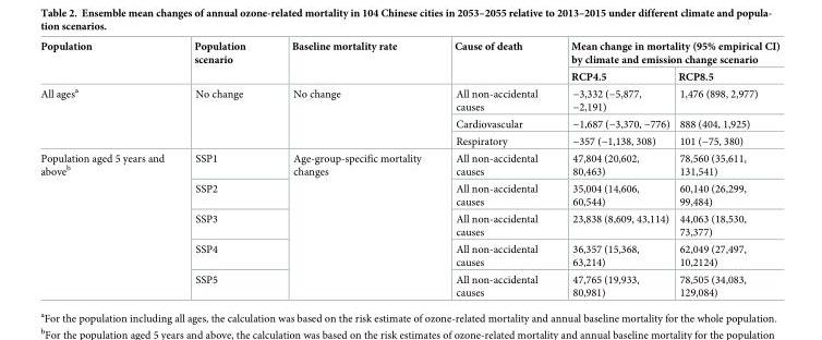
<table><thead><tr><td rowspan="2">Population</td><td rowspan="2">Population scenario</td><td rowspan="2">Baseline mortality rate</td><td rowspan="2">Cause of death</td><td colspan="2">Mean change in mortality (95% empirical CI) by climate and emission change scenario</td></tr><tr><td>RCP4.5</td><td>RCP8.5</td></tr></thead><tbody><tr><td rowspan="3">All ages<sup>a</sup></td><td rowspan="3">No change</td><td rowspan="3">No change</td><td>All non-accidental causes</td><td>−3,332 (−5,877, −2,191)</td><td>1,476 (898, 2,977)</td></tr><tr><td>Cardiovascular</td><td>−1,687 (−3,370, −776)</td><td>888 (404, 1,925)</td></tr><tr><td>Respiratory</td><td>−357 (−1,138, 308)</td><td>101 (−75, 380)</td></tr><tr><td rowspan="5">Population aged 5 years and above<sup>b</sup></td><td>SSP1</td><td rowspan="5">Age-group-specific mortality changes</td><td>All non-accidental causes</td><td>47,804 (20,602, 80,463)</td><td>78,560 (35,611, 131,541)</td></tr><tr><td>SSP2</td><td>All non-accidental causes</td><td>35,004 (14,606, 60,544)</td><td>60,140 (26,299, 99,484)</td></tr><tr><td>SSP3</td><td>All non-accidental causes</td><td>23,838 (8,609, 43,114)</td><td>44,063 (18,530, 73,377)</td></tr><tr><td>SSP4</td><td>All non-accidental causes</td><td>36,357 (15,368, 63,214)</td><td>62,049 (27,497, 10,2124)</td></tr><tr><td>SSP5</td><td>All non-accidental causes</td><td>47,765 (19,933, 80,981)</td><td>78,505 (34,083, 129,084)</td></tr></tbody></table>